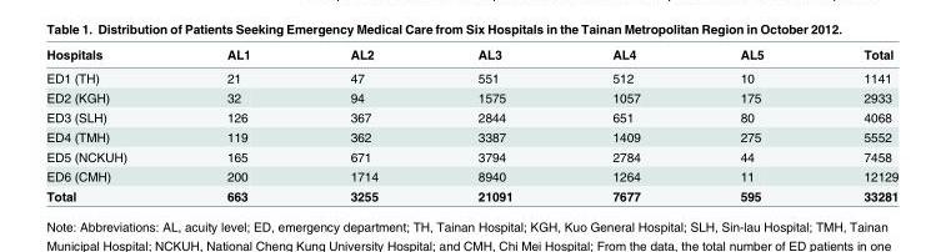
<table><thead><tr><td>Hospitals</td><td>AL1</td><td>AL2</td><td>AL3</td><td>AL4</td><td>AL5</td><td>Total</td></tr></thead><tbody><tr><td>ED1 (TH)</td><td>21</td><td>47</td><td>551</td><td>512</td><td>10</td><td>1141</td></tr><tr><td>ED2 (KGH)</td><td>32</td><td>94</td><td>1575</td><td>1057</td><td>175</td><td>2933</td></tr><tr><td>ED3 (SLH)</td><td>126</td><td>367</td><td>2844</td><td>651</td><td>80</td><td>4068</td></tr><tr><td>ED4 (TMH)</td><td>119</td><td>362</td><td>3387</td><td>1409</td><td>275</td><td>5552</td></tr><tr><td>ED5 (NCKUH)</td><td>165</td><td>671</td><td>3794</td><td>2784</td><td>44</td><td>7458</td></tr><tr><td>ED6 (CMH)</td><td>200</td><td>1714</td><td>8940</td><td>1264</td><td>11</td><td>12129</td></tr><tr><td>Total</td><td>663</td><td>3255</td><td>21091</td><td>7677</td><td>595</td><td>33281</td></tr></tbody></table>